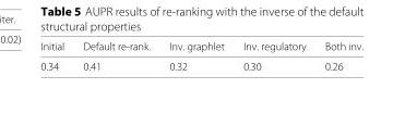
<table><thead><tr><td>Initial</td><td>Default re-rank.</td><td>Inv. graphlet</td><td>Inv. regulatory</td><td>Both inv.</td></tr></thead><tbody><tr><td>0.34</td><td>0.41</td><td>0.32</td><td>0.30</td><td>0.26</td></tr></tbody></table>